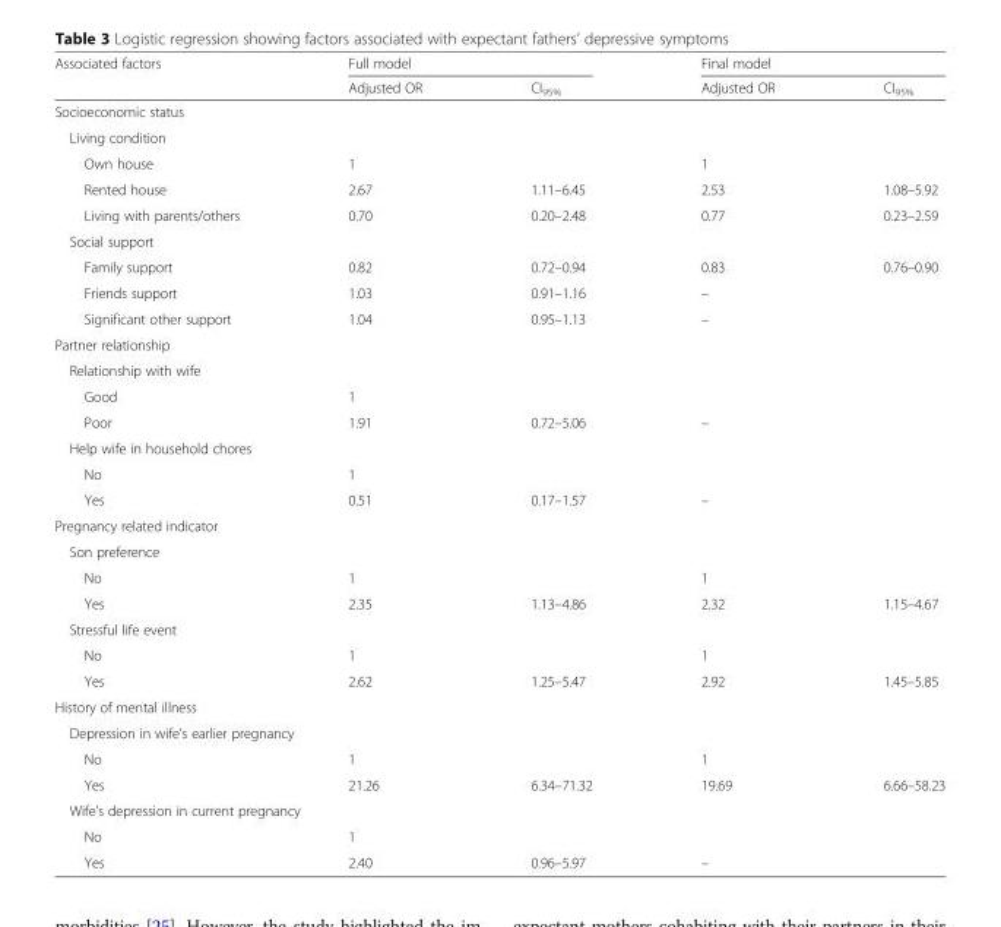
<table><thead><tr><td rowspan="2">Associated factors</td><td colspan="2">Full model</td><td colspan="2">Final model</td></tr><tr><td>Adjusted OR</td><td>CI<sub>95%</sub></td><td>Adjusted OR</td><td>CI<sub>95%</sub></td></tr></thead><tbody><tr><td colspan="5">Socioeconomic status</td></tr><tr><td colspan="5">Living condition</td></tr><tr><td>Own house</td><td>1</td><td></td><td>1</td><td></td></tr><tr><td>Rented house</td><td>2.67</td><td>1.11–6.45</td><td>2.53</td><td>1.08–5.92</td></tr><tr><td>Living with parents/others</td><td>0.70</td><td>0.20–2.48</td><td>0.77</td><td>0.23–2.59</td></tr><tr><td colspan="5">Social support</td></tr><tr><td>Family support</td><td>0.82</td><td>0.72–0.94</td><td>0.83</td><td>0.76–0.90</td></tr><tr><td>Friends support</td><td>1.03</td><td>0.91–1.16</td><td>–</td><td></td></tr><tr><td>Significant other support</td><td>1.04</td><td>0.95–1.13</td><td>–</td><td></td></tr><tr><td colspan="5">Partner relationship</td></tr><tr><td colspan="5">Relationship with wife</td></tr><tr><td>Good</td><td>1</td><td></td><td></td><td></td></tr><tr><td>Poor</td><td>1.91</td><td>0.72–5.06</td><td>–</td><td></td></tr><tr><td colspan="5">Help wife in household chores</td></tr><tr><td>No</td><td>1</td><td></td><td></td><td></td></tr><tr><td>Yes</td><td>0.51</td><td>0.17–1.57</td><td>–</td><td></td></tr><tr><td colspan="5">Pregnancy related indicator</td></tr><tr><td colspan="5">Son preference</td></tr><tr><td>No</td><td>1</td><td></td><td>1</td><td></td></tr><tr><td>Yes</td><td>2.35</td><td>1.13–4.86</td><td>2.32</td><td>1.15–4.67</td></tr><tr><td colspan="5">Stressful life event</td></tr><tr><td>No</td><td>1</td><td></td><td>1</td><td></td></tr><tr><td>Yes</td><td>2.62</td><td>1.25–5.47</td><td>2.92</td><td>1.45–5.85</td></tr><tr><td colspan="5">History of mental illness</td></tr><tr><td colspan="5">Depression in wife’s earlier pregnancy</td></tr><tr><td>No</td><td>1</td><td></td><td>1</td><td></td></tr><tr><td>Yes</td><td>21.26</td><td>6.34–71.32</td><td>19.69</td><td>6.66–58.23</td></tr><tr><td colspan="5">Wife’s depression in current pregnancy</td></tr><tr><td>No</td><td>1</td><td></td><td></td><td></td></tr><tr><td>Yes</td><td>2.40</td><td>0.96–5.97</td><td>–</td><td></td></tr></tbody></table>